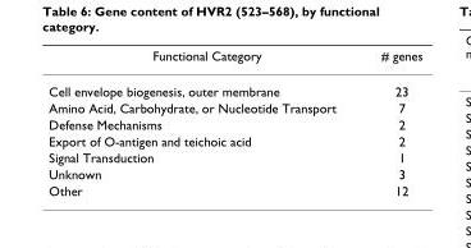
<table><thead><tr><td>Functional Category</td><td># genes</td></tr></thead><tbody><tr><td>Cell envelope biogenesis, outer membrane</td><td>23</td></tr><tr><td>Amino Acid, Carbohydrate, or Nucleotide Transport</td><td>7</td></tr><tr><td>Defense Mechanisms</td><td>2</td></tr><tr><td>Export of O-antigen and teichoic acid</td><td>2</td></tr><tr><td>Signal Transduction</td><td>1</td></tr><tr><td>Unknown</td><td>3</td></tr><tr><td>Other</td><td>12</td></tr></tbody></table>